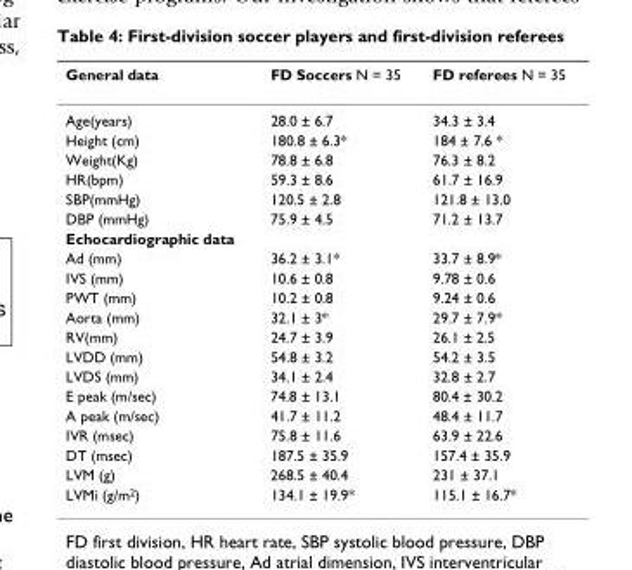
<table><thead><tr><td>General data</td><td>FD Soccers N = 35</td><td>FD referees N = 35</td></tr></thead><tbody><tr><td>Age(years)</td><td>28.0 ± 6.7</td><td>34.3 ± 3.4</td></tr><tr><td>Height (cm)</td><td>180.8 ± 6.3*</td><td>184 ± 7.6 *</td></tr><tr><td>Weight(Kg)</td><td>78.8 ± 6.8</td><td>76.3 ± 8.2</td></tr><tr><td>HR(bpm)</td><td>59.3 ± 8.6</td><td>61.7 ± 16.9</td></tr><tr><td>SBP(mmHg)</td><td>120.5 ± 2.8</td><td>121.8 ± 13.0</td></tr><tr><td>DBP (mmHg)</td><td>75.9 ± 4.5</td><td>71.2 ± 13.7</td></tr><tr><td colspan="3">Echocardiographic data</td></tr><tr><td>Ad (mm)</td><td>36.2 ± 3.1*</td><td>33.7 ± 8.9*</td></tr><tr><td>IVS (mm)</td><td>10.6 ± 0.8</td><td>9.78 ± 0.6</td></tr><tr><td>PWT (mm)</td><td>10.2 ± 0.8</td><td>9.24 ± 0.6</td></tr><tr><td>Aorta (mm)</td><td>32.1 ± 3*</td><td>29.7 ± 7.9*</td></tr><tr><td>RV(mm)</td><td>24.7 ± 3.9</td><td>26.1 ± 2.5</td></tr><tr><td>LVDD (mm)</td><td>54.8 ± 3.2</td><td>54.2 ± 3.5</td></tr><tr><td>LVDS (mm)</td><td>34.1 ± 2.4</td><td>32.8 ± 2.7</td></tr><tr><td>E peak (m/sec)</td><td>74.8 ± 13.1</td><td>80.4 ± 30.2</td></tr><tr><td>A peak (m/sec)</td><td>41.7 ± 11.2</td><td>48.4 ± 11.7</td></tr><tr><td>IVR (msec)</td><td>75.8 ± 11.6</td><td>63.9 ± 22.6</td></tr><tr><td>DT (msec)</td><td>187.5 ± 35.9</td><td>157.4 ± 35.9</td></tr><tr><td>LVM (g)</td><td>268.5 ± 40.4</td><td>231 ± 37.1</td></tr><tr><td>LVMi (g/m<sup>2</sup>)</td><td>134.1 ± 19.9*</td><td>115.1 ± 16.7*</td></tr></tbody></table>